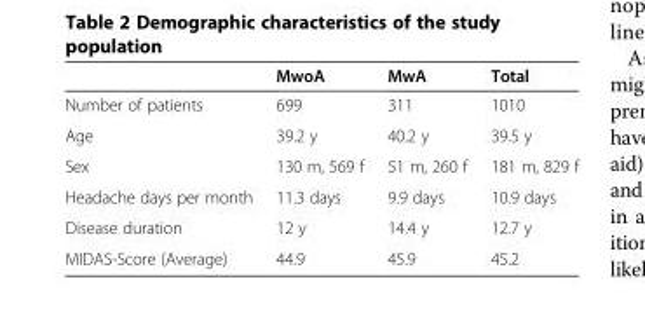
<table><thead><tr><td></td><td>MwoA</td><td>MwA</td><td>Total</td></tr></thead><tbody><tr><td>Number of patients</td><td>699</td><td>311</td><td>1010</td></tr><tr><td>Age</td><td>39.2 y</td><td>40.2 y</td><td>39.5 y</td></tr><tr><td>Sex</td><td>130 m, 569 f</td><td>51 m, 260 f</td><td>181 m, 829 f</td></tr><tr><td>Headache days per month</td><td>11.3 days</td><td>9.9 days</td><td>10.9 days</td></tr><tr><td>Disease duration</td><td>12 y</td><td>14.4 y</td><td>12.7 y</td></tr><tr><td>MIDAS-Score (Average)</td><td>44.9</td><td>45.9</td><td>45.2</td></tr></tbody></table>